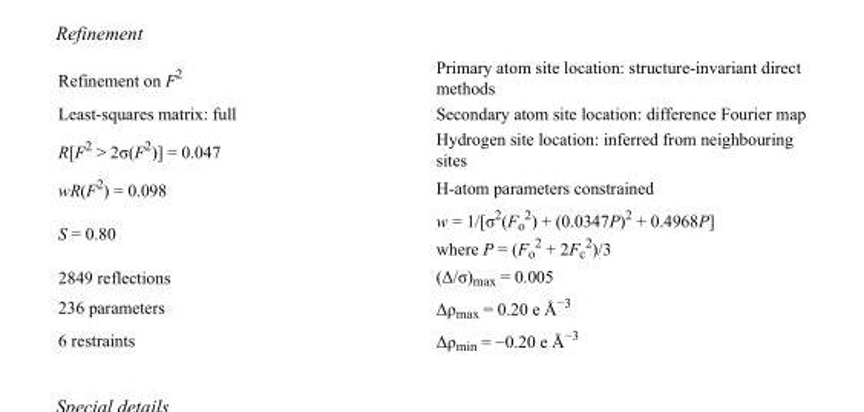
<table><tbody><tr><td>Refinement on F<sup>2</sup></td><td>Primary atom site location: structure-invariant direct methods</td></tr><tr><td>Least-squares matrix: full</td><td>Secondary atom site location: difference Fourier map</td></tr><tr><td>R[F<sup>2</sup> &gt; 2σ(F<sup>2</sup>)] = 0.047</td><td>Hydrogen site location: inferred from neighbouring sites</td></tr><tr><td>wR(F<sup>2</sup>) = 0.098</td><td>H-atom parameters constrained</td></tr><tr><td>S = 0.80</td><td>w = 1/[σ<sup>2</sup>(F<sub>o</sub> <sup>2</sup>) + (0.0347P)<sup>2</sup> + 0.4968P] where P = (F<sub>o</sub> <sup>2</sup> + 2F<sub>c</sub> <sup>2</sup>)/3</td></tr><tr><td>2849 reflections</td><td>(Δ/σ)<sub>max</sub> = 0.005</td></tr><tr><td>236 parameters</td><td>Δρ<sub>max</sub> = 0.20 e Å<sup>−3</sup></td></tr><tr><td>6 restraints</td><td>Δρ<sub>min</sub> = −0.20 e Å<sup>−3</sup></td></tr></tbody></table>